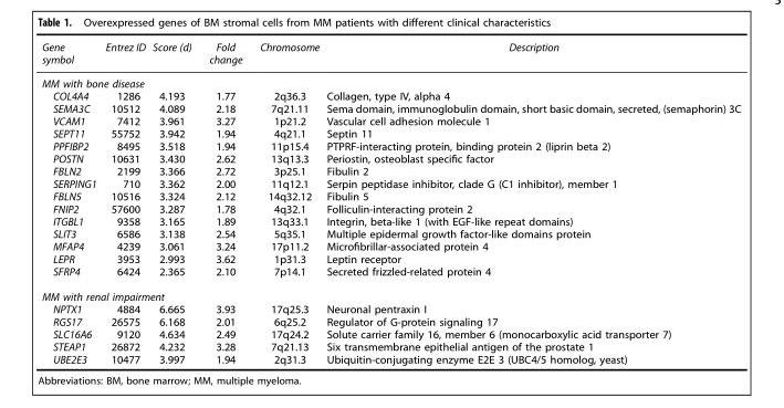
<table><thead><tr><td>Gene symbol</td><td>Entrez ID</td><td>Score (d)</td><td>Fold change</td><td>Chromosome</td><td>Description</td></tr></thead><tbody><tr><td colspan="6">MM with bone disease</td></tr><tr><td>COL4A4</td><td>1286</td><td>4.193</td><td>1.77</td><td>2q36.3</td><td>Collagen, type IV, alpha 4</td></tr><tr><td>SEMA3C</td><td>10512</td><td>4.089</td><td>2.18</td><td>7q21.11</td><td>Sema domain, immunoglobulin domain, short basic domain, secreted, (semaphorin) 3C</td></tr><tr><td>VCAM1</td><td>7412</td><td>3.961</td><td>3.27</td><td>1p21.2</td><td>Vascular cell adhesion molecule 1</td></tr><tr><td>SEPT11</td><td>55752</td><td>3.942</td><td>1.94</td><td>4q21.1</td><td>Septin 11</td></tr><tr><td>PPFIBP2</td><td>8495</td><td>3.518</td><td>1.94</td><td>11p15.4</td><td>PTPRF-interacting protein, binding protein 2 (liprin beta 2)</td></tr><tr><td>POSTN</td><td>10631</td><td>3.430</td><td>2.62</td><td>13q13.3</td><td>Periostin, osteoblast specific factor</td></tr><tr><td>FBLN2</td><td>2199</td><td>3.366</td><td>2.72</td><td>3p25.1</td><td>Fibulin 2</td></tr><tr><td>SERPING1</td><td>710</td><td>3.362</td><td>2.00</td><td>11q12.1</td><td>Serpin peptidase inhibitor, clade G (C1 inhibitor), member 1</td></tr><tr><td>FBLN5</td><td>10516</td><td>3.324</td><td>2.12</td><td>14q32.12</td><td>Fibulin 5</td></tr><tr><td>FNIP2</td><td>57600</td><td>3.287</td><td>1.78</td><td>4q32.1</td><td>Folliculin-interacting protein 2</td></tr><tr><td>ITGBL1</td><td>9358</td><td>3.165</td><td>1.89</td><td>13q33.1</td><td>Integrin, beta-like 1 (with EGF-like repeat domains)</td></tr><tr><td>SLIT3</td><td>6586</td><td>3.138</td><td>2.54</td><td>5q35.1</td><td>Multiple epidermal growth factor-like domains protein</td></tr><tr><td>MFAP4</td><td>4239</td><td>3.061</td><td>3.24</td><td>17p11.2</td><td>Microfibrillar-associated protein 4</td></tr><tr><td>LEPR</td><td>3953</td><td>2.993</td><td>3.62</td><td>1p31.3</td><td>Leptin receptor</td></tr><tr><td>SFRP4</td><td>6424</td><td>2.365</td><td>2.10</td><td>7p14.1</td><td>Secreted frizzled-related protein 4</td></tr><tr><td colspan="6">MM with renal impairment</td></tr><tr><td>NPTX1</td><td>4884</td><td>6.665</td><td>3.93</td><td>17q25.3</td><td>Neuronal pentraxin I</td></tr><tr><td>RGS17</td><td>26575</td><td>6.168</td><td>2.01</td><td>6q25.2</td><td>Regulator of G-protein signaling 17</td></tr><tr><td>SLC16A6</td><td>9120</td><td>4.634</td><td>2.49</td><td>17q24.2</td><td>Solute carrier family 16, member 6 (monocarboxylic acid transporter 7)</td></tr><tr><td>STEAP1</td><td>26872</td><td>4.232</td><td>3.28</td><td>7q21.13</td><td>Six transmembrane epithelial antigen of the prostate 1</td></tr><tr><td>UBE2E3</td><td>10477</td><td>3.997</td><td>1.94</td><td>2q31.3</td><td>Ubiquitin-conjugating enzyme E2E 3 (UBC4/5 homolog, yeast)</td></tr></tbody></table>